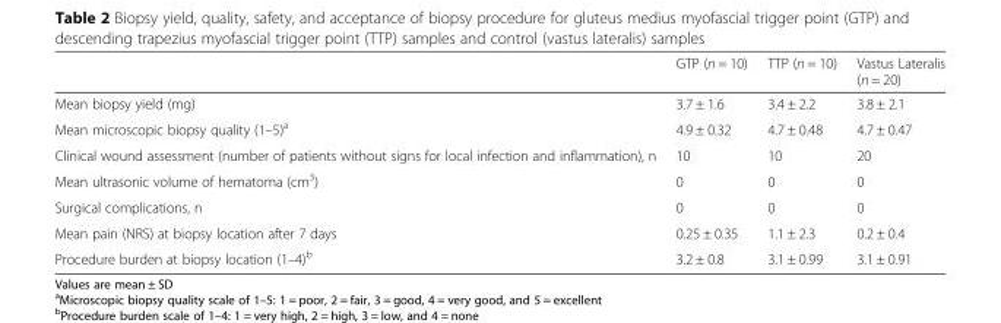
<table><thead><tr><td></td><td>GTP (n = 10)</td><td>TTP (n = 10)</td><td>Vastus Lateralis (n = 20)</td></tr></thead><tbody><tr><td>Mean biopsy yield (mg)</td><td>3.7 ± 1.6</td><td>3.4 ± 2.2</td><td>3.8 ± 2.1</td></tr><tr><td>Mean microscopic biopsy quality (1–5)<sup>a</sup></td><td>4.9 ± 0.32</td><td>4.7 ± 0.48</td><td>4.7 ± 0.47</td></tr><tr><td>Clinical wound assessment (number of patients without signs for local infection and inflammation), n</td><td>10</td><td>10</td><td>20</td></tr><tr><td>Mean ultrasonic volume of hematoma (cm<sup>3</sup>)</td><td>0</td><td>0</td><td>0</td></tr><tr><td>Surgical complications, n</td><td>0</td><td>0</td><td>0</td></tr><tr><td>Mean pain (NRS) at biopsy location after 7 days</td><td>0.25 ± 0.35</td><td>1.1 ± 2.3</td><td>0.2 ± 0.4</td></tr><tr><td>Procedure burden at biopsy location (1–4)<sup>b</sup></td><td>3.2 ± 0.8</td><td>3.1 ± 0.99</td><td>3.1 ± 0.91</td></tr></tbody></table>